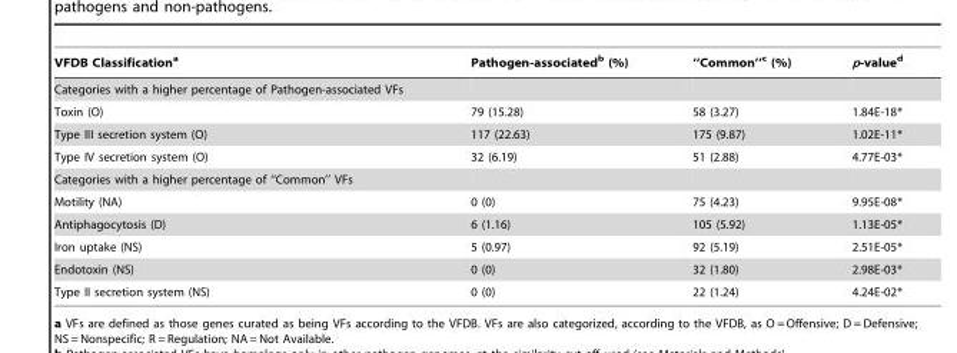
<table><thead><tr><td>VFDB Classification<sup>a</sup></td><td>Pathogen-associated<sup>b</sup> (%)</td><td>‘‘Common’’c (%)</td><td>p-value<sup>d</sup></td></tr></thead><tbody><tr><td colspan="4">Categories with a higher percentage of Pathogen-associated VFs</td></tr><tr><td>Toxin (O)</td><td>79 (15.28)</td><td>58 (3.27)</td><td>1.84E-18*</td></tr><tr><td>Type III secretion system (O)</td><td>117 (22.63)</td><td>175 (9.87)</td><td>1.02E-11*</td></tr><tr><td>Type IV secretion system (O)</td><td>32 (6.19)</td><td>51 (2.88)</td><td>4.77E-03*</td></tr><tr><td colspan="4">Categories with a higher percentage of ‘‘Common’’ VFs</td></tr><tr><td>Motility (NA)</td><td>0 (0)</td><td>75 (4.23)</td><td>9.95E-08*</td></tr><tr><td>Antiphagocytosis (D)</td><td>6 (1.16)</td><td>105 (5.92)</td><td>1.13E-05*</td></tr><tr><td>Iron uptake (NS)</td><td>5 (0.97)</td><td>92 (5.19)</td><td>2.51E-05*</td></tr><tr><td>Endotoxin (NS)</td><td>0 (0)</td><td>32 (1.80)</td><td>2.98E-03*</td></tr><tr><td>Type II secretion system (NS)</td><td>0 (0)</td><td>22 (1.24)</td><td>4.24E-02*</td></tr></tbody></table>